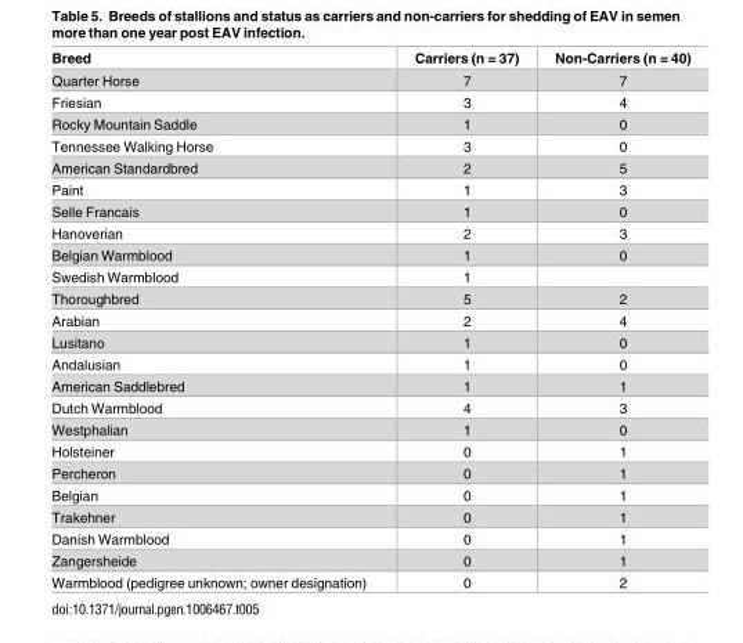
<table><thead><tr><td>Breed</td><td>Carriers (n = 37)</td><td>Non-Carriers (n = 40)</td></tr></thead><tbody><tr><td>Quarter Horse</td><td>7</td><td>7</td></tr><tr><td>Friesian</td><td>3</td><td>4</td></tr><tr><td>Rocky Mountain Saddle</td><td>1</td><td>0</td></tr><tr><td>Tennessee Walking Horse</td><td>3</td><td>0</td></tr><tr><td>American Standardbred</td><td>2</td><td>5</td></tr><tr><td>Paint</td><td>1</td><td>3</td></tr><tr><td>Selle Francais</td><td>1</td><td>0</td></tr><tr><td>Hanoverian</td><td>2</td><td>3</td></tr><tr><td>Belgian Warmblood</td><td>1</td><td>0</td></tr><tr><td>Swedish Warmblood</td><td>1</td><td></td></tr><tr><td>Thoroughbred</td><td>5</td><td>2</td></tr><tr><td>Arabian</td><td>2</td><td>4</td></tr><tr><td>Lusitano</td><td>1</td><td>0</td></tr><tr><td>Andalusian</td><td>1</td><td>0</td></tr><tr><td>American Saddlebred</td><td>1</td><td>1</td></tr><tr><td>Dutch Warmblood</td><td>4</td><td>3</td></tr><tr><td>Westphalian</td><td>1</td><td>0</td></tr><tr><td>Holsteiner</td><td>0</td><td>1</td></tr><tr><td>Percheron</td><td>0</td><td>1</td></tr><tr><td>Belgian</td><td>0</td><td>1</td></tr><tr><td>Trakehner</td><td>0</td><td>1</td></tr><tr><td>Danish Warmblood</td><td>0</td><td>1</td></tr><tr><td>Zangersheide</td><td>0</td><td>1</td></tr><tr><td>Warmblood (pedigree unknown; owner designation)</td><td>0</td><td>2</td></tr></tbody></table>